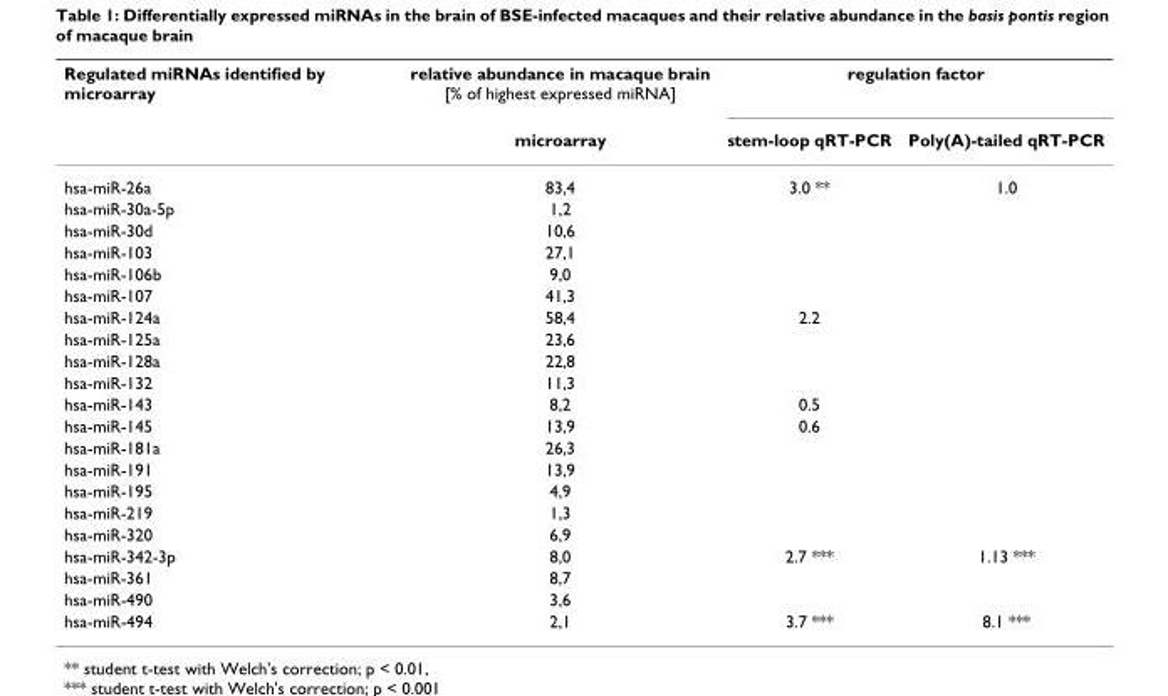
<table><thead><tr><td rowspan="2">Regulated miRNAs identified by microarray</td><td rowspan="2">relative abundance in macaque brain [% of highest expressed miRNA] microarray</td><td colspan="2">regulation factor</td></tr><tr><td>stem-loop qRT-PCR</td><td>Poly(A)-tailed qRT-PCR</td></tr></thead><tbody><tr><td>hsa-miR-26a</td><td>83,4</td><td>3.0 **</td><td>1.0</td></tr><tr><td>hsa-miR-30a-5p</td><td>1,2</td><td></td><td></td></tr><tr><td>hsa-miR-30d</td><td>10,6</td><td></td><td></td></tr><tr><td>hsa-miR-103</td><td>27,1</td><td></td><td></td></tr><tr><td>hsa-miR-106b</td><td>9,0</td><td></td><td></td></tr><tr><td>hsa-miR-107</td><td>41,3</td><td></td><td></td></tr><tr><td>hsa-miR-124a</td><td>58,4</td><td>2.2</td><td></td></tr><tr><td>hsa-miR-125a</td><td>23,6</td><td></td><td></td></tr><tr><td>hsa-miR-128a</td><td>22,8</td><td></td><td></td></tr><tr><td>hsa-miR-132</td><td>11,3</td><td></td><td></td></tr><tr><td>hsa-miR-143</td><td>8,2</td><td>0.5</td><td></td></tr><tr><td>hsa-miR-145</td><td>13,9</td><td>0.6</td><td></td></tr><tr><td>hsa-miR-181a</td><td>26,3</td><td></td><td></td></tr><tr><td>hsa-miR-191</td><td>13,9</td><td></td><td></td></tr><tr><td>hsa-miR-195</td><td>4,9</td><td></td><td></td></tr><tr><td>hsa-miR-219</td><td>1,3</td><td></td><td></td></tr><tr><td>hsa-miR-320</td><td>6,9</td><td></td><td></td></tr><tr><td>hsa-miR-342-3p</td><td>8,0</td><td>2.7 ***</td><td>1.13 ***</td></tr><tr><td>hsa-miR-361</td><td>8,7</td><td></td><td></td></tr><tr><td>hsa-miR-490</td><td>3,6</td><td></td><td></td></tr><tr><td>hsa-miR-494</td><td>2,1</td><td>3.7 ***</td><td>8.1 ***</td></tr></tbody></table>